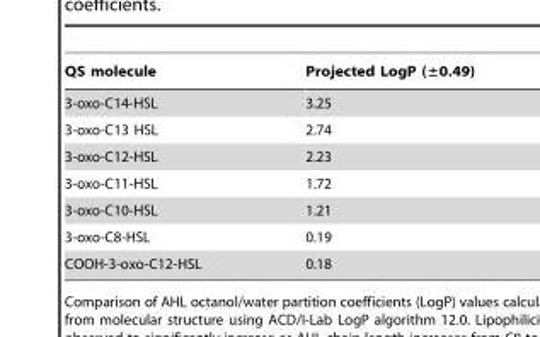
<table><thead><tr><td>QS molecule</td><td>Projected LogP (±0.49)</td></tr></thead><tbody><tr><td>3-oxo-C14-HSL</td><td>3.25</td></tr><tr><td>3-oxo-C13 HSL</td><td>2.74</td></tr><tr><td>3-oxo-C12-HSL</td><td>2.23</td></tr><tr><td>3-oxo-C11-HSL</td><td>1.72</td></tr><tr><td>3-oxo-C10-HSL</td><td>1.21</td></tr><tr><td>3-oxo-C8-HSL</td><td>0.19</td></tr><tr><td>COOH-3-oxo-C12-HSL</td><td>0.18</td></tr></tbody></table>